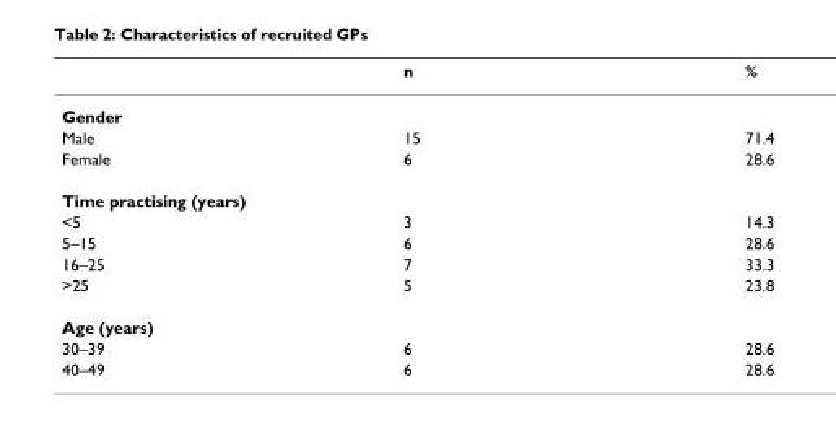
<table><thead><tr><td></td><td>n</td><td>%</td></tr></thead><tbody><tr><td colspan="3">Gender</td></tr><tr><td>Male</td><td>15</td><td>71.4</td></tr><tr><td>Female</td><td>6</td><td>28.6</td></tr><tr><td colspan="3">Time practising (years)</td></tr><tr><td>&lt;5</td><td>3</td><td>14.3</td></tr><tr><td>5–15</td><td>6</td><td>28.6</td></tr><tr><td>16–25</td><td>7</td><td>33.3</td></tr><tr><td>&gt;25</td><td>5</td><td>23.8</td></tr><tr><td colspan="3">Age (years)</td></tr><tr><td>30–39</td><td>6</td><td>28.6</td></tr><tr><td>40–49</td><td>6</td><td>28.6</td></tr></tbody></table>